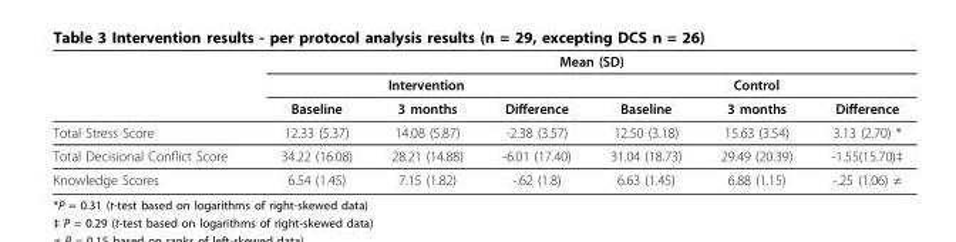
<table><thead><tr><td rowspan="3"></td><td colspan="6">Mean (SD)</td></tr><tr><td colspan="3">Intervention</td><td colspan="3">Control</td></tr><tr><td>Baseline</td><td>3 months</td><td>Difference</td><td>Baseline</td><td>3 months</td><td>Difference</td></tr></thead><tbody><tr><td>Total Stress Score</td><td>12.33 (5.37)</td><td>14.08 (5.87)</td><td>-2.38 (3.57)</td><td>12.50 (3.18)</td><td>15.63 (3.54)</td><td>3.13 (2.70) *</td></tr><tr><td>Total Decisional Conflict Score</td><td>34.22 (16.08)</td><td>28.21 (14.88)</td><td>-6.01 (17.40)</td><td>31.04 (18.73)</td><td>29.49 (20.39)</td><td>-1.55(15.70)‡</td></tr><tr><td>Knowledge Scores</td><td>6.54 (1.45)</td><td>7.15 (1.82)</td><td>-.62 (1.8)</td><td>6.63 (1.45)</td><td>6.88 (1.15)</td><td>-.25 (1.06) ≠</td></tr></tbody></table>